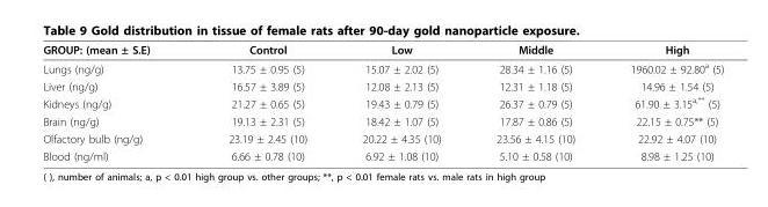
<table><thead><tr><td>GROUP: (mean ± S.E)</td><td>Control</td><td>Low</td><td>Middle</td><td>High</td></tr></thead><tbody><tr><td>Lungs (ng/g)</td><td>13.75 ± 0.95 (5)</td><td>15.07 ± 2.02 (5)</td><td>28.34 ± 1.16 (5)</td><td>1960.02 ± 92.80<sup>a</sup> (5)</td></tr><tr><td>Liver (ng/g)</td><td>16.57 ± 3.89 (5)</td><td>12.08 ± 2.13 (5)</td><td>12.31 ± 1.18 (5)</td><td>14.96 ± 1.54 (5)</td></tr><tr><td>Kidneys (ng/g)</td><td>21.27 ± 0.65 (5)</td><td>19.43 ± 0.79 (5)</td><td>26.37 ± 0.79 (5)</td><td>61.90 ± 3.15<sup>a,**</sup> (5)</td></tr><tr><td>Brain (ng/g)</td><td>19.13 ± 2.31 (5)</td><td>18.42 ± 1.07 (5)</td><td>17.87 ± 0.86 (5)</td><td>22.15 ± 0.75** (5)</td></tr><tr><td>Olfactory bulb (ng/g)</td><td>23.19 ± 2.45 (10)</td><td>20.22 ± 4.35 (10)</td><td>23.56 ± 4.15 (10)</td><td>22.92 ± 4.07 (10)</td></tr><tr><td>Blood (ng/ml)</td><td>6.66 ± 0.78 (10)</td><td>6.92 ± 1.08 (10)</td><td>5.10 ± 0.58 (10)</td><td>8.98 ± 1.25 (10)</td></tr></tbody></table>